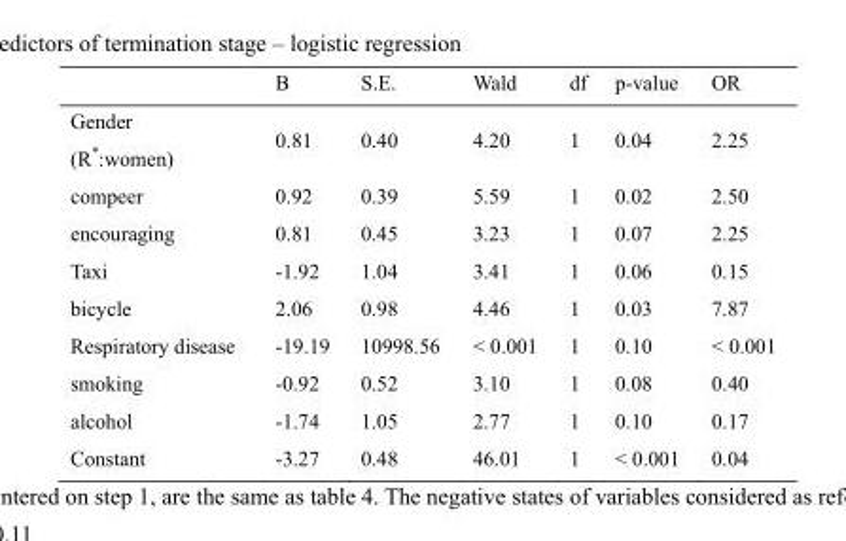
<table><thead><tr><td></td><td>B</td><td>S.E.</td><td>Wald</td><td>df</td><td>p-value</td><td>OR</td></tr></thead><tbody><tr><td>Gender (R*:women)</td><td>0.81</td><td>0.40</td><td>4.20</td><td>1</td><td>0.04</td><td>2.25</td></tr><tr><td>compeer</td><td>0.92</td><td>0.39</td><td>5.59</td><td>1</td><td>0.02</td><td>2.50</td></tr><tr><td>encouraging</td><td>0.81</td><td>0.45</td><td>3.23</td><td>1</td><td>0.07</td><td>2.25</td></tr><tr><td>Taxi</td><td>-1.92</td><td>1.04</td><td>3.41</td><td>1</td><td>0.06</td><td>0.15</td></tr><tr><td>bicycle</td><td>2.06</td><td>0.98</td><td>4.46</td><td>1</td><td>0.03</td><td>7.87</td></tr><tr><td>Respiratory disease</td><td>-19.19</td><td>10998.56</td><td>&lt; 0.001</td><td>1</td><td>0.10</td><td>&lt; 0.001</td></tr><tr><td>smoking</td><td>-0.92</td><td>0.52</td><td>3.10</td><td>1</td><td>0.08</td><td>0.40</td></tr><tr><td>alcohol</td><td>-1.74</td><td>1.05</td><td>2.77</td><td>1</td><td>0.10</td><td>0.17</td></tr><tr><td>Constant</td><td>-3.27</td><td>0.48</td><td>46.01</td><td>1</td><td>&lt; 0.001</td><td>0.04</td></tr></tbody></table>